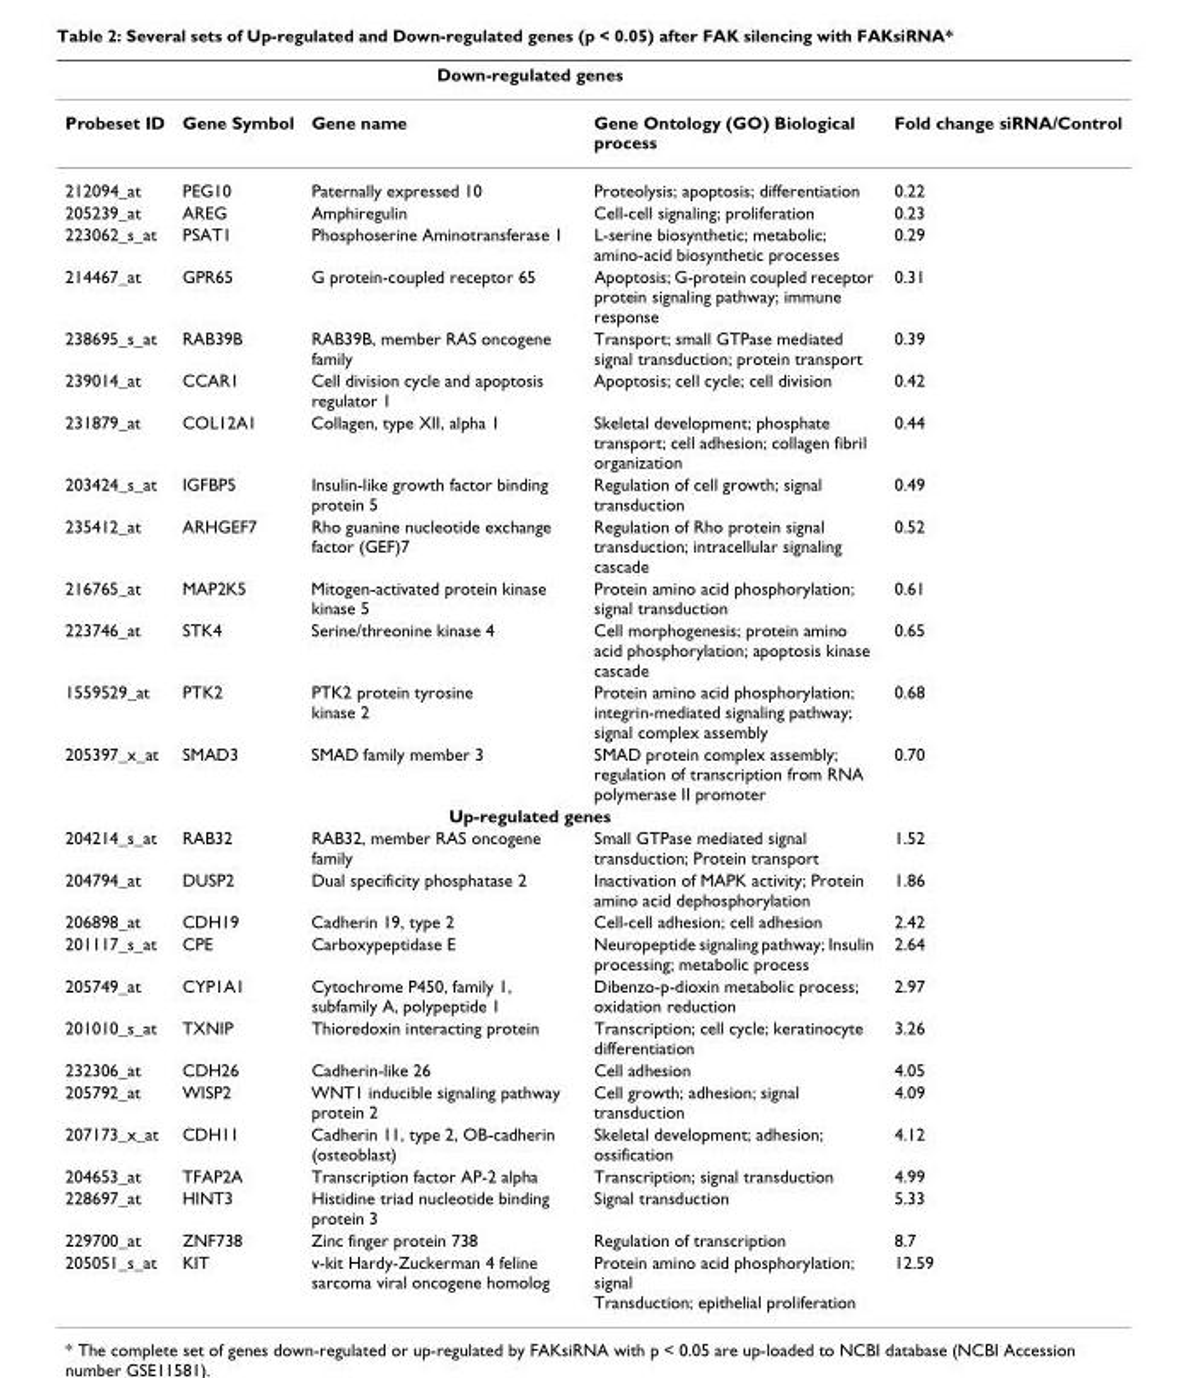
<table><thead><tr><td rowspan="2">Probeset ID</td><td colspan="3">Down-regulated genes</td><td rowspan="2">Fold change siRNA/Control</td></tr><tr><td>Gene Symbol</td><td>Gene name</td><td>Gene Ontology (GO) Biological process</td></tr></thead><tbody><tr><td>212094_at</td><td>PEG10</td><td>Paternally expressed 10</td><td>Proteolysis; apoptosis; differentiation</td><td>0.22</td></tr><tr><td>205239_at</td><td>AREG</td><td>Amphiregulin</td><td>Cell-cell signaling; proliferation</td><td>0.23</td></tr><tr><td>223062_s_at</td><td>PSAT1</td><td>Phosphoserine Aminotransferase 1</td><td>L-serine biosynthetic; metabolic; amino-acid biosynthetic processes</td><td>0.29</td></tr><tr><td>214467_at</td><td>GPR65</td><td>G protein-coupled receptor 65</td><td>Apoptosis; G-protein coupled receptor protein signaling pathway; immune response</td><td>0.31</td></tr><tr><td>238695_s_at</td><td>RAB39B</td><td>RAB39B, member RAS oncogene family</td><td>Transport; small GTPase mediated signal transduction; protein transport</td><td>0.39</td></tr><tr><td>239014_at</td><td>CCAR1</td><td>Cell division cycle and apoptosis regulator 1</td><td>Apoptosis; cell cycle; cell division</td><td>0.42</td></tr><tr><td>231879_at</td><td>COL12A1</td><td>Collagen, type XII, alpha 1</td><td>Skeletal development; phosphate transport; cell adhesion; collagen fibril organization</td><td>0.44</td></tr><tr><td>203424_s_at</td><td>IGFBP5</td><td>Insulin-like growth factor binding protein 5</td><td>Regulation of cell growth; signal transduction</td><td>0.49</td></tr><tr><td>235412_at</td><td>ARHGEF7</td><td>Rho guanine nucleotide exchange factor (GEF)7</td><td>Regulation of Rho protein signal transduction; intracellular signaling cascade</td><td>0.52</td></tr><tr><td>216765_at</td><td>MAP2K5</td><td>Mitogen-activated protein kinase kinase 5</td><td>Protein amino acid phosphorylation; signal transduction</td><td>0.61</td></tr><tr><td>223746_at</td><td>STK4</td><td>Serine/threonine kinase 4</td><td>Cell morphogenesis; protein amino acid phosphorylation; apoptosis kinase cascade</td><td>0.65</td></tr><tr><td>1559529_at</td><td>PTK2</td><td>PTK2 protein tyrosine kinase 2</td><td>Protein amino acid phosphorylation; integrin-mediated signaling pathway; signal complex assembly</td><td>0.68</td></tr><tr><td rowspan="2">205397_x_at</td><td>SMAD3</td><td>SMAD family member 3</td><td>SMAD protein complex assembly; regulation of transcription from RNA polymerase II promoter</td><td>0.70</td></tr><tr><td colspan="3">Up-regulated genes</td><td></td></tr><tr><td>204214_s_at</td><td>RAB32</td><td>RAB32, member RAS oncogene family</td><td>Small GTPase mediated signal transduction; Protein transport</td><td>1.52</td></tr><tr><td>204794_at</td><td>DUSP2</td><td>Dual specificity phosphatase 2</td><td>Inactivation of MAPK activity; Protein amino acid dephosphorylation</td><td>1.86</td></tr><tr><td>206898_at</td><td>CDH19</td><td>Cadherin 19, type 2</td><td>Cell-cell adhesion; cell adhesion</td><td>2.42</td></tr><tr><td>201117_s_at</td><td>CPE</td><td>Carboxypeptidase E</td><td>Neuropeptide signaling pathway; Insulin processing; metabolic process</td><td>2.64</td></tr><tr><td>205749_at</td><td>CYP1A1</td><td>Cytochrome P450, family 1, subfamily A, polypeptide 1</td><td>Dibenzo-p-dioxin metabolic process; oxidation reduction</td><td>2.97</td></tr><tr><td>201010_s_at</td><td>TXNIP</td><td>Thioredoxin interacting protein</td><td>Transcription; cell cycle; keratinocyte differentiation</td><td>3.26</td></tr><tr><td>232306_at</td><td>CDH26</td><td>Cadherin-like 26</td><td>Cell adhesion</td><td>4.05</td></tr><tr><td>205792_at</td><td>WISP2</td><td>WNT1 inducible signaling pathway protein 2</td><td>Cell growth; adhesion; signal transduction</td><td>4.09</td></tr><tr><td>207173_x_at</td><td>CDH11</td><td>Cadherin 11, type 2, OB-cadherin (osteoblast)</td><td>Skeletal development; adhesion; ossification</td><td>4.12</td></tr><tr><td>204653_at</td><td>TFAP2A</td><td>Transcription factor AP-2 alpha</td><td>Transcription; signal transduction</td><td>4.99</td></tr><tr><td>228697_at</td><td>HINT3</td><td>Histidine triad nucleotide binding protein 3</td><td>Signal transduction</td><td>5.33</td></tr><tr><td>229700_at</td><td>ZNF738</td><td>Zinc finger protein 738</td><td>Regulation of transcription</td><td>8.7</td></tr><tr><td>205051_s_at</td><td>KIT</td><td>v-kit Hardy-Zuckerman 4 feline sarcoma viral oncogene homolog</td><td>Protein amino acid phosphorylation; signal Transduction; epithelial proliferation</td><td>12.59</td></tr></tbody></table>